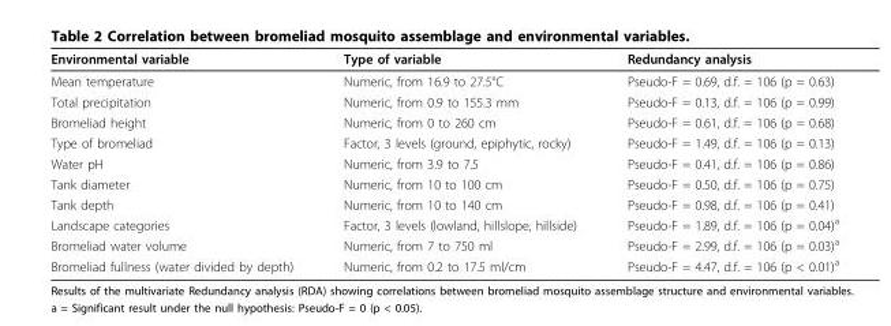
<table><thead><tr><td>Environmental variable</td><td>Type of variable</td><td>Redundancy analysis</td></tr></thead><tbody><tr><td>Mean temperature</td><td>Numeric, from 16.9 to 27.5°C</td><td>Pseudo-F = 0.69, d.f. = 106 (p = 0.63)</td></tr><tr><td>Total precipitation</td><td>Numeric, from 0.9 to 155.3 mm</td><td>Pseudo-F = 0.13, d.f. = 106 (p = 0.99)</td></tr><tr><td>Bromeliad height</td><td>Numeric, from 0 to 260 cm</td><td>Pseudo-F = 0.61, d.f. = 106 (p = 0.68)</td></tr><tr><td>Type of bromeliad</td><td>Factor, 3 levels (ground, epiphytic, rocky)</td><td>Pseudo-F = 1.49, d.f. = 106 (p = 0.13)</td></tr><tr><td>Water pH</td><td>Numeric, from 3.9 to 7.5</td><td>Pseudo-F = 0.41, d.f. = 106 (p = 0.86)</td></tr><tr><td>Tank diameter</td><td>Numeric, from 10 to 100 cm</td><td>Pseudo-F = 0.50, d.f. = 106 (p = 0.75)</td></tr><tr><td>Tank depth</td><td>Numeric, from 10 to 140 cm</td><td>Pseudo-F = 0.98, d.f. = 106 (p = 0.41)</td></tr><tr><td>Landscape categories</td><td>Factor, 3 levels (lowland, hillslope, hillside)</td><td>Pseudo-F = 1.89, d.f. = 106 (p = 0.04)<sup>a</sup></td></tr><tr><td>Bromeliad water volume</td><td>Numeric, from 7 to 750 ml</td><td>Pseudo-F = 2.99, d.f. = 106 (p = 0.03)<sup>a</sup></td></tr><tr><td>Bromeliad fullness (water divided by depth)</td><td>Numeric, from 0.2 to 17.5 ml/cm</td><td>Pseudo-F = 4.47, d.f. = 106 (p &lt; 0.01)<sup>a</sup></td></tr></tbody></table>